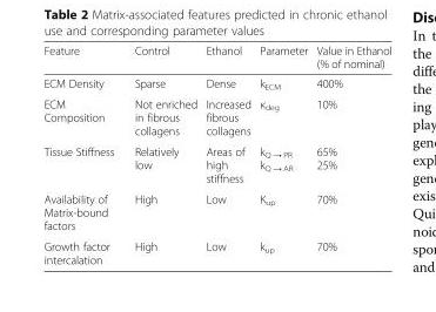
<table><thead><tr><td>Feature</td><td>Control</td><td>Ethanol</td><td>Parameter</td><td>Value in Ethanol (% of nominal)</td></tr></thead><tbody><tr><td>ECM Density</td><td>Sparse</td><td>Dense</td><td>k<sub>ECM</sub></td><td>400%</td></tr><tr><td>ECM Composition</td><td>Not enriched in fibrous collagens</td><td>Increased fibrous collagens</td><td>κ<sub>deg</sub></td><td>10%</td></tr><tr><td>Tissue Stiffness</td><td>Relatively low</td><td>Areas of high stiffness</td><td>k<sub>Q → PR</sub> k<sub>Q → AR</sub></td><td>65% 25%</td></tr><tr><td>Availability of Matrix-bound factors</td><td>High</td><td>Low</td><td>K<sub>up</sub></td><td>70%</td></tr><tr><td>Growth factor intercalation</td><td>High</td><td>Low</td><td>k<sub>up</sub></td><td>70%</td></tr></tbody></table>